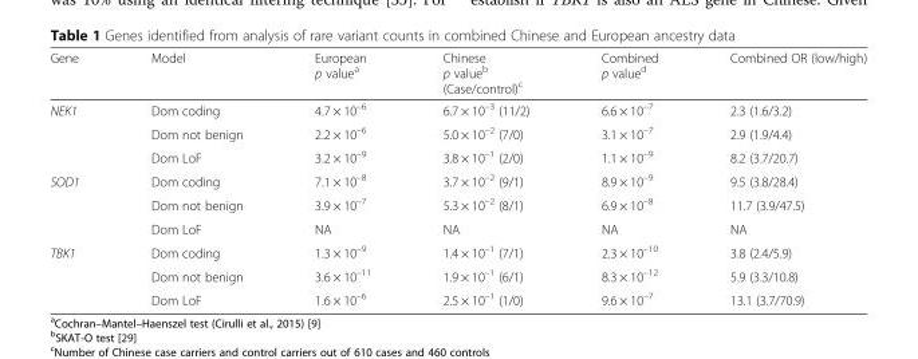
<table><thead><tr><td>Gene</td><td>Model</td><td>European p value<sup>a</sup></td><td>Chinese p value<sup>b</sup> (Case/control)<sup>c</sup></td><td>Combined p value<sup>d</sup></td><td>Combined OR (low/high)</td></tr></thead><tbody><tr><td rowspan="3">NEK1</td><td>Dom coding</td><td>4.7 × 10<sup>–6</sup></td><td>6.7 × 10<sup>–3</sup> (11/2)</td><td>6.6 × 10<sup>–7</sup></td><td>2.3 (1.6/3.2)</td></tr><tr><td>Dom not benign</td><td>2.2 × 10<sup>–6</sup></td><td>5.0 × 10<sup>–2</sup> (7/0)</td><td>3.1 × 10<sup>–7</sup></td><td>2.9 (1.9/4.4)</td></tr><tr><td>Dom LoF</td><td>3.2 × 10<sup>–9</sup></td><td>3.8 × 10<sup>–1</sup> (2/0)</td><td>1.1 × 10<sup>–9</sup></td><td>8.2 (3.7/20.7)</td></tr><tr><td rowspan="3">SOD1</td><td>Dom coding</td><td>7.1 × 10<sup>–8</sup></td><td>3.7 × 10<sup>–2</sup> (9/1)</td><td>8.9 × 10<sup>–9</sup></td><td>9.5 (3.8/28.4)</td></tr><tr><td>Dom not benign</td><td>3.9 × 10<sup>–7</sup></td><td>5.3 × 10<sup>–2</sup> (8/1)</td><td>6.9 × 10<sup>–8</sup></td><td>11.7 (3.9/47.5)</td></tr><tr><td>Dom LoF</td><td>NA</td><td>NA</td><td>NA</td><td>NA</td></tr><tr><td rowspan="3">TBK1</td><td>Dom coding</td><td>1.3 × 10<sup>–9</sup></td><td>1.4 × 10<sup>–1</sup> (7/1)</td><td>2.3 × 10<sup>–10</sup></td><td>3.8 (2.4/5.9)</td></tr><tr><td>Dom not benign</td><td>3.6 × 10<sup>–11</sup></td><td>1.9 × 10<sup>–1</sup> (6/1)</td><td>8.3 × 10<sup>–12</sup></td><td>5.9 (3.3/10.8)</td></tr><tr><td>Dom LoF</td><td>1.6 × 10<sup>–6</sup></td><td>2.5 × 10<sup>–1</sup> (1/0)</td><td>9.6 × 10<sup>–7</sup></td><td>13.1 (3.7/70.9)</td></tr></tbody></table>